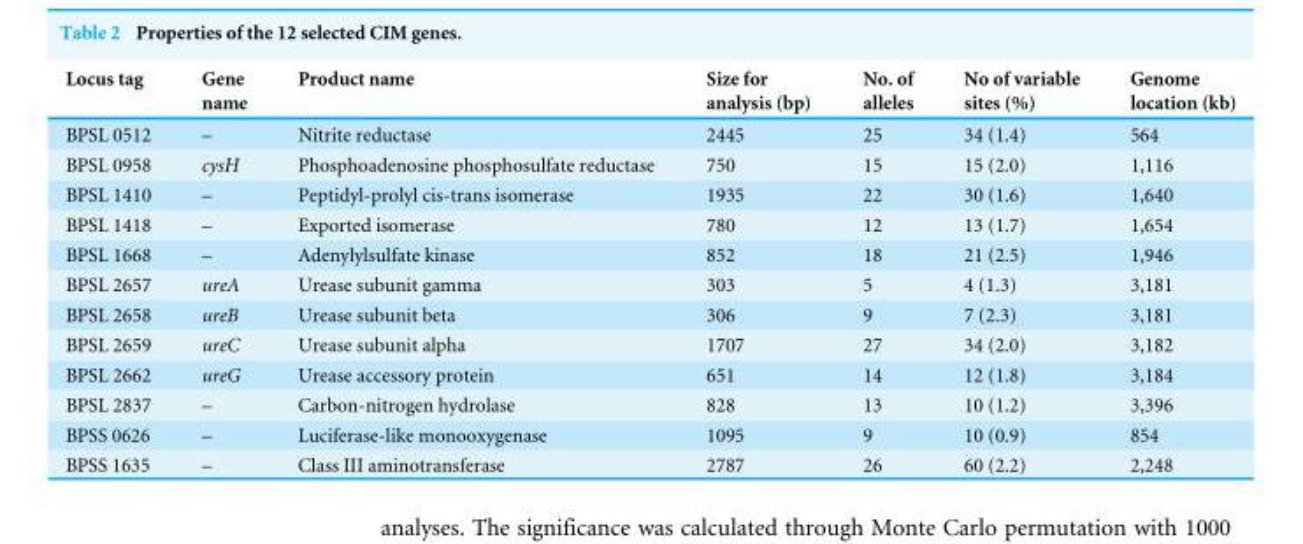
<table><thead><tr><td>Locus tag</td><td>Gene name</td><td>Product name</td><td>Size for analysis (bp)</td><td>No. of alleles</td><td>No of variable sites (%)</td><td>Genome location (kb)</td></tr></thead><tbody><tr><td>BPSL 0512</td><td>–</td><td>Nitrite reductase</td><td>2445</td><td>25</td><td>34 (1.4)</td><td>564</td></tr><tr><td>BPSL 0958</td><td>cysH</td><td>Phosphoadenosine phosphosulfate reductase</td><td>750</td><td>15</td><td>15 (2.0)</td><td>1,116</td></tr><tr><td>BPSL 1410</td><td>–</td><td>Peptidyl-prolyl cis-trans isomerase</td><td>1935</td><td>22</td><td>30 (1.6)</td><td>1,640</td></tr><tr><td>BPSL 1418</td><td>–</td><td>Exported isomerase</td><td>780</td><td>12</td><td>13 (1.7)</td><td>1,654</td></tr><tr><td>BPSL 1668</td><td>–</td><td>Adenylylsulfate kinase</td><td>852</td><td>18</td><td>21 (2.5)</td><td>1,946</td></tr><tr><td>BPSL 2657</td><td>ureA</td><td>Urease subunit gamma</td><td>303</td><td>5</td><td>4 (1.3)</td><td>3,181</td></tr><tr><td>BPSL 2658</td><td>ureB</td><td>Urease subunit beta</td><td>306</td><td>9</td><td>7 (2.3)</td><td>3,181</td></tr><tr><td>BPSL 2659</td><td>ureC</td><td>Urease subunit alpha</td><td>1707</td><td>27</td><td>34 (2.0)</td><td>3,182</td></tr><tr><td>BPSL 2662</td><td>ureG</td><td>Urease accessory protein</td><td>651</td><td>14</td><td>12 (1.8)</td><td>3,184</td></tr><tr><td>BPSL 2837</td><td>–</td><td>Carbon-nitrogen hydrolase</td><td>828</td><td>13</td><td>10 (1.2)</td><td>3,396</td></tr><tr><td>BPSS 0626</td><td>–</td><td>Luciferase-like monooxygenase</td><td>1095</td><td>9</td><td>10 (0.9)</td><td>854</td></tr><tr><td>BPSS 1635</td><td>–</td><td>Class III aminotransferase</td><td>2787</td><td>26</td><td>60 (2.2)</td><td>2,248</td></tr></tbody></table>